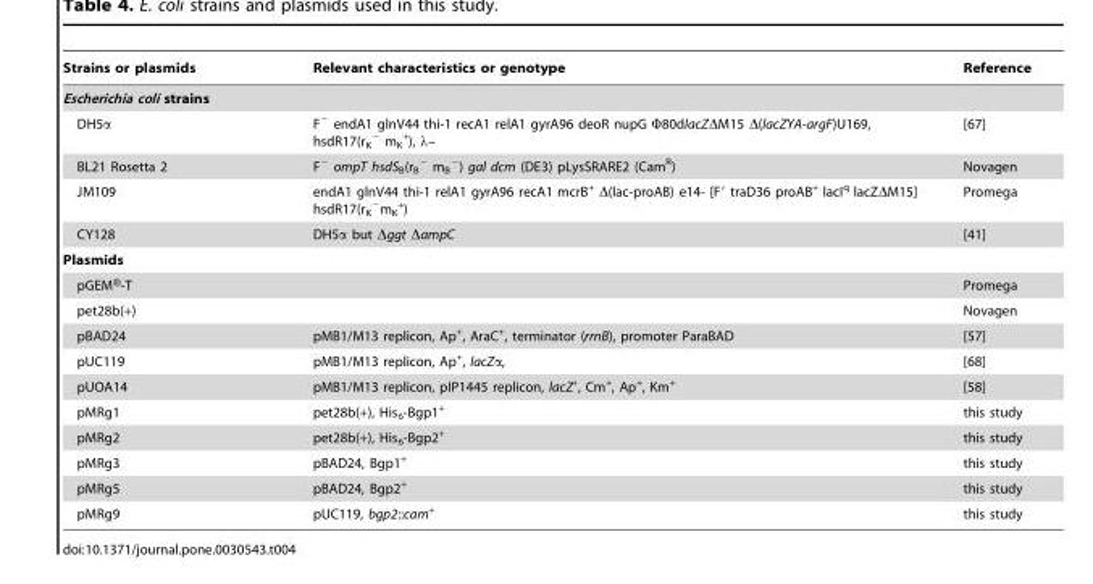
<table><thead><tr><td>Strains or plasmids</td><td>Relevant characteristics or genotype</td><td>Reference</td></tr></thead><tbody><tr><td colspan="3">Escherichia coli strains</td></tr><tr><td>DH5α</td><td>F<sup>−</sup> endA1 glnV44 thi-1 recA1 relA1 gyrA96 deoR nupG Φ80dlacZΔM15 Δ(lacZYA-argF)U169, hsdR17(r<sub>K</sub> <sup>−</sup> m<sub>K</sub> <sup>+</sup>), λ–</td><td>[67]</td></tr><tr><td>BL21 Rosetta 2</td><td>F<sup>−</sup> ompT hsdS<sub>B</sub>(r<sub>B</sub> <sup>−</sup> m<sub>B</sub> <sup>−</sup>) gal dcm (DE3) pLysSRARE2 (Cam<sup>R</sup>)</td><td>Novagen</td></tr><tr><td>JM109</td><td>endA1 glnV44 thi-1 relA1 gyrA96 recA1 mcrB<sup>+</sup> Δ(lac-proAB) e14- [F′ traD36 proAB<sup>+</sup> lacI<sup>q</sup> lacZΔM15] hsdR17(r<sub>K</sub> <sup>−</sup>m<sub>K</sub> <sup>+</sup>)</td><td>Promega</td></tr><tr><td>CY128</td><td>DH5α but Δggt ΔampC</td><td>[41]</td></tr><tr><td colspan="3">Plasmids</td></tr><tr><td>pGEM®-T</td><td></td><td>Promega</td></tr><tr><td>pet28b(+)</td><td></td><td>Novagen</td></tr><tr><td>pBAD24</td><td>pMB1/M13 replicon, Ap<sup>+</sup>, AraC<sup>+</sup>, terminator (rrnB), promoter ParaBAD</td><td>[57]</td></tr><tr><td>pUC119</td><td>pMB1/M13 replicon, Ap<sup>+</sup>, lacZα,</td><td>[68]</td></tr><tr><td>pUOA14</td><td>pMB1/M13 replicon, pIP1445 replicon, lacZ′, Cm<sup>+</sup>, Ap<sup>+</sup>, Km<sup>+</sup></td><td>[58]</td></tr><tr><td>pMRg1</td><td>pet28b(+), His<sub>6</sub>-Bgp1<sup>+</sup></td><td>this study</td></tr><tr><td>pMRg2</td><td>pet28b(+), His<sub>6</sub>-Bgp2<sup>+</sup></td><td>this study</td></tr><tr><td>pMRg3</td><td>pBAD24, Bgp1<sup>+</sup></td><td>this study</td></tr><tr><td>pMRg5</td><td>pBAD24, Bgp2<sup>+</sup></td><td>this study</td></tr><tr><td>pMRg9</td><td>pUC119, bgp2::cam<sup>+</sup></td><td>this study</td></tr></tbody></table>